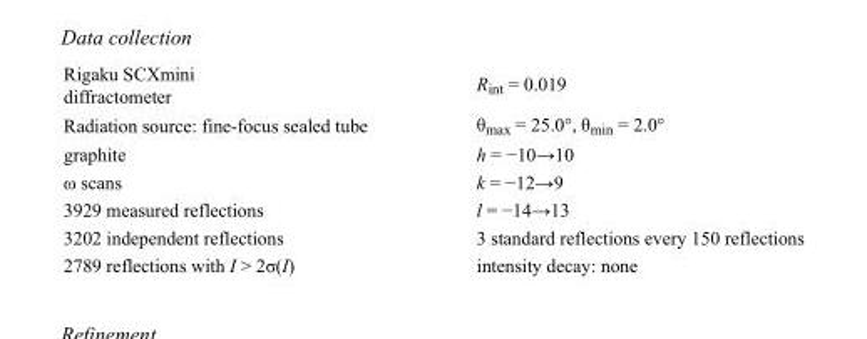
<table><tbody><tr><td>Rigaku SCXmini diffractometer</td><td>R<sub>int</sub> = 0.019</td></tr><tr><td>Radiation source: fine-focus sealed tube</td><td>θ<sub>max</sub> = 25.0°, θ<sub>min</sub> = 2.0°</td></tr><tr><td>graphite</td><td>h = −10→10</td></tr><tr><td>ω scans</td><td>k = −12→9</td></tr><tr><td>3929 measured reflections</td><td>l = −14→13</td></tr><tr><td>3202 independent reflections</td><td>3 standard reflections every 150 reflections</td></tr><tr><td>2789 reflections with I &gt; 2σ(I)</td><td>intensity decay: none</td></tr></tbody></table>